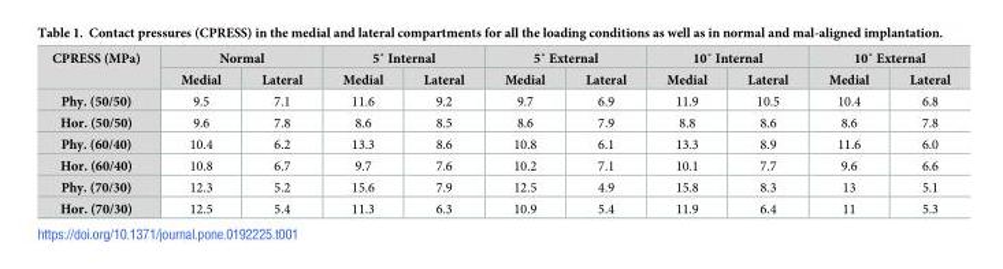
<table><thead><tr><td rowspan="2">CPRESS (MPa)</td><td colspan="2">Normal</td><td colspan="2">5˚ Internal</td><td colspan="2">5˚ External</td><td colspan="2">10˚ Internal</td><td colspan="2">10˚ External</td></tr><tr><td>Medial</td><td>Lateral</td><td>Medial</td><td>Lateral</td><td>Medial</td><td>Lateral</td><td>Medial</td><td>Lateral</td><td>Medial</td><td>Lateral</td></tr></thead><tbody><tr><td>Phy. (50/50)</td><td>9.5</td><td>7.1</td><td>11.6</td><td>9.2</td><td>9.7</td><td>6.9</td><td>11.9</td><td>10.5</td><td>10.4</td><td>6.8</td></tr><tr><td>Hor. (50/50)</td><td>9.6</td><td>7.8</td><td>8.6</td><td>8.5</td><td>8.6</td><td>7.9</td><td>8.8</td><td>8.6</td><td>8.6</td><td>7.8</td></tr><tr><td>Phy. (60/40)</td><td>10.4</td><td>6.2</td><td>13.3</td><td>8.6</td><td>10.8</td><td>6.1</td><td>13.3</td><td>8.9</td><td>11.6</td><td>6.0</td></tr><tr><td>Hor. (60/40)</td><td>10.8</td><td>6.7</td><td>9.7</td><td>7.6</td><td>10.2</td><td>7.1</td><td>10.1</td><td>7.7</td><td>9.6</td><td>6.6</td></tr><tr><td>Phy. (70/30)</td><td>12.3</td><td>5.2</td><td>15.6</td><td>7.9</td><td>12.5</td><td>4.9</td><td>15.8</td><td>8.3</td><td>13</td><td>5.1</td></tr><tr><td>Hor. (70/30)</td><td>12.5</td><td>5.4</td><td>11.3</td><td>6.3</td><td>10.9</td><td>5.4</td><td>11.9</td><td>6.4</td><td>11</td><td>5.3</td></tr></tbody></table>